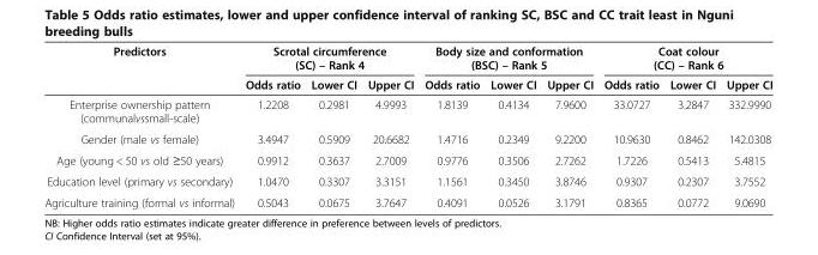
<table><thead><tr><td rowspan="2">Predictors</td><td colspan="3">Scrotal circumference (SC) – Rank 4</td><td colspan="3">Body size and conformation (BSC) – Rank 5</td><td colspan="3">Coat colour (CC) – Rank 6</td></tr><tr><td>Odds ratio</td><td>Lower CI</td><td>Upper CI</td><td>Odds ratio</td><td>Lower CI</td><td>Upper CI</td><td>Odds ratio</td><td>Lower CI</td><td>Upper CI</td></tr></thead><tbody><tr><td>Enterprise ownership pattern (communalvssmall-scale)</td><td>1.2208</td><td>0.2981</td><td>4.9993</td><td>1.8139</td><td>0.4134</td><td>7.9600</td><td>33.0727</td><td>3.2847</td><td>332.9990</td></tr><tr><td>Gender (male vs female)</td><td>3.4947</td><td>0.5909</td><td>20.6682</td><td>1.4716</td><td>0.2349</td><td>9.2200</td><td>10.9630</td><td>0.8462</td><td>142.0308</td></tr><tr><td>Age (young &lt; 50 vs old ≥50 years)</td><td>0.9912</td><td>0.3637</td><td>2.7009</td><td>0.9776</td><td>0.3506</td><td>2.7262</td><td>1.7226</td><td>0.5413</td><td>5.4815</td></tr><tr><td>Education level (primary vs secondary)</td><td>1.0470</td><td>0.3307</td><td>3.3151</td><td>1.1561</td><td>0.3450</td><td>3.8746</td><td>0.9307</td><td>0.2307</td><td>3.7552</td></tr><tr><td>Agriculture training (formal vs informal)</td><td>0.5043</td><td>0.0675</td><td>3.7647</td><td>0.4091</td><td>0.0526</td><td>3.1791</td><td>0.8365</td><td>0.0772</td><td>9.0690</td></tr></tbody></table>